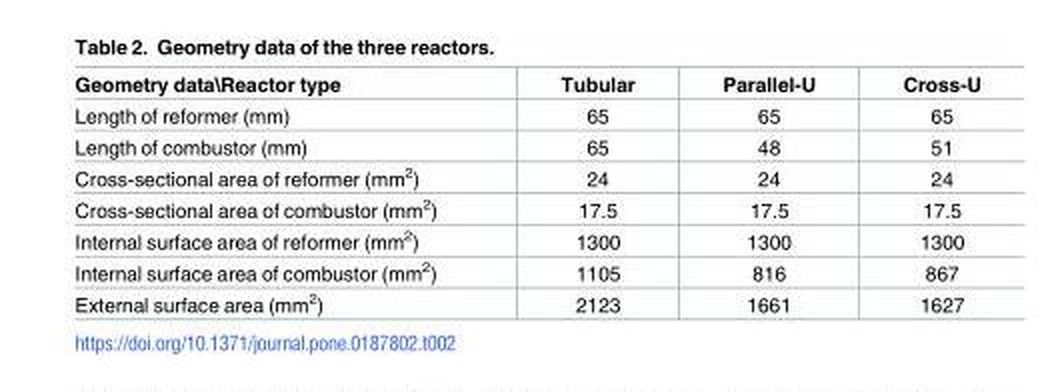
<table><thead><tr><td>Geometry data\Reactor type</td><td>Tubular</td><td>Parallel-U</td><td>Cross-U</td></tr></thead><tbody><tr><td>Length of reformer (mm)</td><td>65</td><td>65</td><td>65</td></tr><tr><td>Length of combustor (mm)</td><td>65</td><td>48</td><td>51</td></tr><tr><td>Cross-sectional area of reformer (mm<sup>2</sup>)</td><td>24</td><td>24</td><td>24</td></tr><tr><td>Cross-sectional area of combustor (mm<sup>2</sup>)</td><td>17.5</td><td>17.5</td><td>17.5</td></tr><tr><td>Internal surface area of reformer (mm<sup>2</sup>)</td><td>1300</td><td>1300</td><td>1300</td></tr><tr><td>Internal surface area of combustor (mm<sup>2</sup>)</td><td>1105</td><td>816</td><td>867</td></tr><tr><td>External surface area (mm<sup>2</sup>)</td><td>2123</td><td>1661</td><td>1627</td></tr></tbody></table>